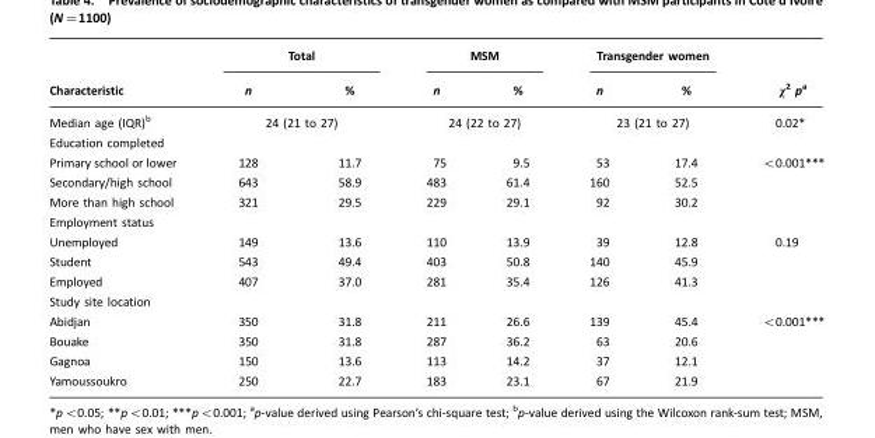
<table><thead><tr><td rowspan="2">Characteristic</td><td colspan="2">Total</td><td colspan="2">MSM</td><td colspan="2">Transgender women</td><td rowspan="2">χ<sup>2</sup> p<sup>a</sup></td></tr><tr><td>n</td><td>%</td><td>n</td><td>%</td><td>n</td><td>%</td></tr></thead><tbody><tr><td>Median age (IQR)<sup>b</sup></td><td colspan="2">24 (21 to 27)</td><td colspan="2">24 (22 to 27)</td><td colspan="2">23 (21 to 27)</td><td>0.02*</td></tr><tr><td colspan="8">Education completed</td></tr><tr><td>Primary school or lower</td><td>128</td><td>11.7</td><td>75</td><td>9.5</td><td>53</td><td>17.4</td><td>&lt;0.001***</td></tr><tr><td>Secondary/high school</td><td>643</td><td>58.9</td><td>483</td><td>61.4</td><td>160</td><td>52.5</td><td></td></tr><tr><td>More than high school</td><td>321</td><td>29.5</td><td>229</td><td>29.1</td><td>92</td><td>30.2</td><td></td></tr><tr><td colspan="8">Employment status</td></tr><tr><td>Unemployed</td><td>149</td><td>13.6</td><td>110</td><td>13.9</td><td>39</td><td>12.8</td><td>0.19</td></tr><tr><td>Student</td><td>543</td><td>49.4</td><td>403</td><td>50.8</td><td>140</td><td>45.9</td><td></td></tr><tr><td>Employed</td><td>407</td><td>37.0</td><td>281</td><td>35.4</td><td>126</td><td>41.3</td><td></td></tr><tr><td colspan="8">Study site location</td></tr><tr><td>Abidjan</td><td>350</td><td>31.8</td><td>211</td><td>26.6</td><td>139</td><td>45.4</td><td>&lt;0.001***</td></tr><tr><td>Bouake</td><td>350</td><td>31.8</td><td>287</td><td>36.2</td><td>63</td><td>20.6</td><td></td></tr><tr><td>Gagnoa</td><td>150</td><td>13.6</td><td>113</td><td>14.2</td><td>37</td><td>12.1</td><td></td></tr><tr><td>Yamoussoukro</td><td>250</td><td>22.7</td><td>183</td><td>23.1</td><td>67</td><td>21.9</td><td></td></tr></tbody></table>